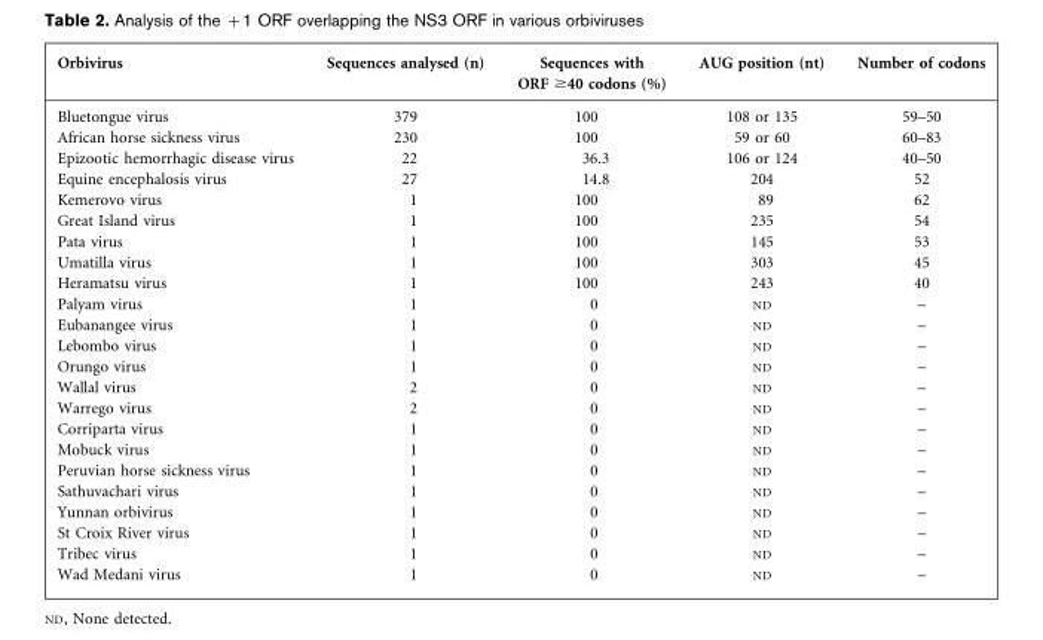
<table><thead><tr><td>Orbivirus</td><td>Sequences analysed (n)</td><td>Sequences with ORF ≥40 codons (%)</td><td>AUG position (nt)</td><td>Number of codons</td></tr></thead><tbody><tr><td>Bluetongue virus</td><td>379</td><td>100</td><td>108 or 135</td><td>59–50</td></tr><tr><td>African horse sickness virus</td><td>230</td><td>100</td><td>59 or 60</td><td>60–83</td></tr><tr><td>Epizootic hemorrhagic disease virus</td><td>22</td><td>36.3</td><td>106 or 124</td><td>40–50</td></tr><tr><td>Equine encephalosis virus</td><td>27</td><td>14.8</td><td>204</td><td>52</td></tr><tr><td>Kemerovo virus</td><td>1</td><td>100</td><td>89</td><td>62</td></tr><tr><td>Great Island virus</td><td>1</td><td>100</td><td>235</td><td>54</td></tr><tr><td>Pata virus</td><td>1</td><td>100</td><td>145</td><td>53</td></tr><tr><td>Umatilla virus</td><td>1</td><td>100</td><td>303</td><td>45</td></tr><tr><td>Heramatsu virus</td><td>1</td><td>100</td><td>243</td><td>40</td></tr><tr><td>Palyam virus</td><td>1</td><td>0</td><td>ND</td><td>–</td></tr><tr><td>Eubanangee virus</td><td>1</td><td>0</td><td>ND</td><td>–</td></tr><tr><td>Lebombo virus</td><td>1</td><td>0</td><td>ND</td><td>–</td></tr><tr><td>Orungo virus</td><td>1</td><td>0</td><td>ND</td><td>–</td></tr><tr><td>Wallal virus</td><td>2</td><td>0</td><td>ND</td><td>–</td></tr><tr><td>Warrego virus</td><td>2</td><td>0</td><td>ND</td><td>–</td></tr><tr><td>Corriparta virus</td><td>1</td><td>0</td><td>ND</td><td>–</td></tr><tr><td>Mobuck virus</td><td>1</td><td>0</td><td>ND</td><td>–</td></tr><tr><td>Peruvian horse sickness virus</td><td>1</td><td>0</td><td>ND</td><td>–</td></tr><tr><td>Sathuvachari virus</td><td>1</td><td>0</td><td>ND</td><td>–</td></tr><tr><td>Yunnan orbivirus</td><td>1</td><td>0</td><td>ND</td><td>–</td></tr><tr><td>St Croix River virus</td><td>1</td><td>0</td><td>ND</td><td>–</td></tr><tr><td>Tribec virus</td><td>1</td><td>0</td><td>ND</td><td>–</td></tr><tr><td>Wad Medani virus</td><td>1</td><td>0</td><td>ND</td><td>–</td></tr></tbody></table>